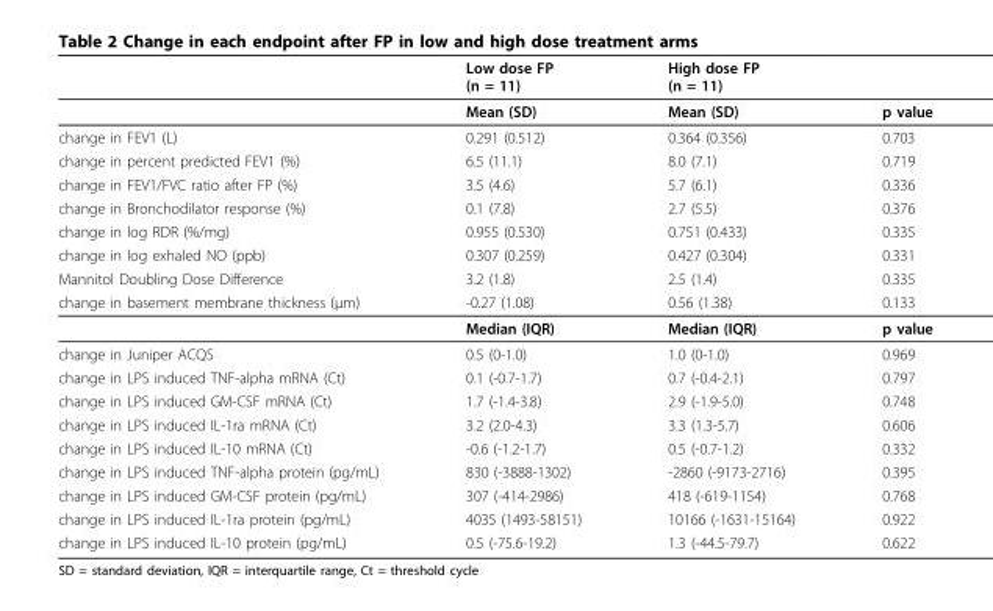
<table><thead><tr><td></td><td>Low dose FP (n = 11)</td><td>High dose FP (n = 11)</td><td></td></tr></thead><tbody><tr><td></td><td>Mean (SD)</td><td>Mean (SD)</td><td>p value</td></tr><tr><td>change in FEV1 (L)</td><td>0.291 (0.512)</td><td>0.364 (0.356)</td><td>0.703</td></tr><tr><td>change in percent predicted FEV1 (%)</td><td>6.5 (11.1)</td><td>8.0 (7.1)</td><td>0.719</td></tr><tr><td>change in FEV1/FVC ratio after FP (%)</td><td>3.5 (4.6)</td><td>5.7 (6.1)</td><td>0.336</td></tr><tr><td>change in Bronchodilator response (%)</td><td>0.1 (7.8)</td><td>2.7 (5.5)</td><td>0.376</td></tr><tr><td>change in log RDR (%/mg)</td><td>0.955 (0.530)</td><td>0.751 (0.433)</td><td>0.335</td></tr><tr><td>change in log exhaled NO (ppb)</td><td>0.307 (0.259)</td><td>0.427 (0.304)</td><td>0.331</td></tr><tr><td>Mannitol Doubling Dose Difference</td><td>3.2 (1.8)</td><td>2.5 (1.4)</td><td>0.335</td></tr><tr><td rowspan="2">change in basement membrane thickness (μm)</td><td>-0.27 (1.08)</td><td>0.56 (1.38)</td><td>0.133</td></tr><tr><td>Median (IQR)</td><td>Median (IQR)</td><td>p value</td></tr><tr><td>change in Juniper ACQS</td><td>0.5 (0-1.0)</td><td>1.0 (0-1.0)</td><td>0.969</td></tr><tr><td>change in LPS induced TNF-alpha mRNA (Ct)</td><td>0.1 (-0.7-1.7)</td><td>0.7 (-0.4-2.1)</td><td>0.797</td></tr><tr><td>change in LPS induced GM-CSF mRNA (Ct)</td><td>1.7 (-1.4-3.8)</td><td>2.9 (-1.9-5.0)</td><td>0.748</td></tr><tr><td>change in LPS induced IL-1ra mRNA (Ct)</td><td>3.2 (2.0-4.3)</td><td>3.3 (1.3-5.7)</td><td>0.606</td></tr><tr><td>change in LPS induced IL-10 mRNA (Ct)</td><td>-0.6 (-1.2-1.7)</td><td>0.5 (-0.7-1.2)</td><td>0.332</td></tr><tr><td>change in LPS induced TNF-alpha protein (pg/mL)</td><td>830 (-3888-1302)</td><td>-2860 (-9173-2716)</td><td>0.395</td></tr><tr><td>change in LPS induced GM-CSF protein (pg/mL)</td><td>307 (-414-2986)</td><td>418 (-619-1154)</td><td>0.768</td></tr><tr><td>change in LPS induced IL-1ra protein (pg/mL)</td><td>4035 (1493-58151)</td><td>10166 (-1631-15164)</td><td>0.922</td></tr><tr><td>change in LPS induced IL-10 protein (pg/mL)</td><td>0.5 (-75.6-19.2)</td><td>1.3 (-44.5-79.7)</td><td>0.622</td></tr></tbody></table>